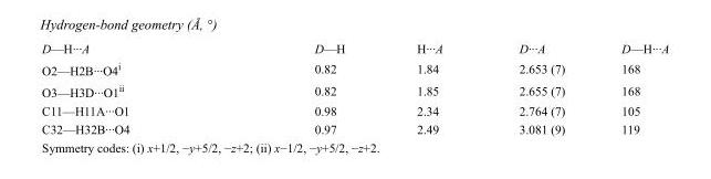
<table><tbody><tr><td>D—H···A</td><td>D—H</td><td>H···A</td><td>D···A</td><td>D—H···A</td></tr><tr><td>O2—H2B···O4<sup>i</sup></td><td>0.82</td><td>1.84</td><td>2.653 (7)</td><td>168</td></tr><tr><td>O3—H3D···O1<sup>ii</sup></td><td>0.82</td><td>1.85</td><td>2.655 (7)</td><td>168</td></tr><tr><td>C11—H11A···O1</td><td>0.98</td><td>2.34</td><td>2.764 (7)</td><td>105</td></tr><tr><td>C32—H32B···O4</td><td>0.97</td><td>2.49</td><td>3.081 (9)</td><td>119</td></tr></tbody></table>